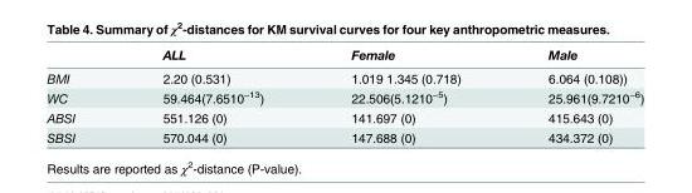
<table><thead><tr><td></td><td>ALL</td><td>Female</td><td>Male</td></tr></thead><tbody><tr><td>BMI</td><td>2.20 (0.531)</td><td>1.019 1.345 (0.718)</td><td>6.064 (0.108))</td></tr><tr><td>WC</td><td>59.464(7.6510<sup>−13</sup>)</td><td>22.506(5.1210<sup>−5</sup>)</td><td>25.961(9.7210<sup>−6</sup>)</td></tr><tr><td>ABSI</td><td>551.126 (0)</td><td>141.697 (0)</td><td>415.643 (0)</td></tr><tr><td>SBSI</td><td>570.044 (0)</td><td>147.688 (0)</td><td>434.372 (0)</td></tr></tbody></table>